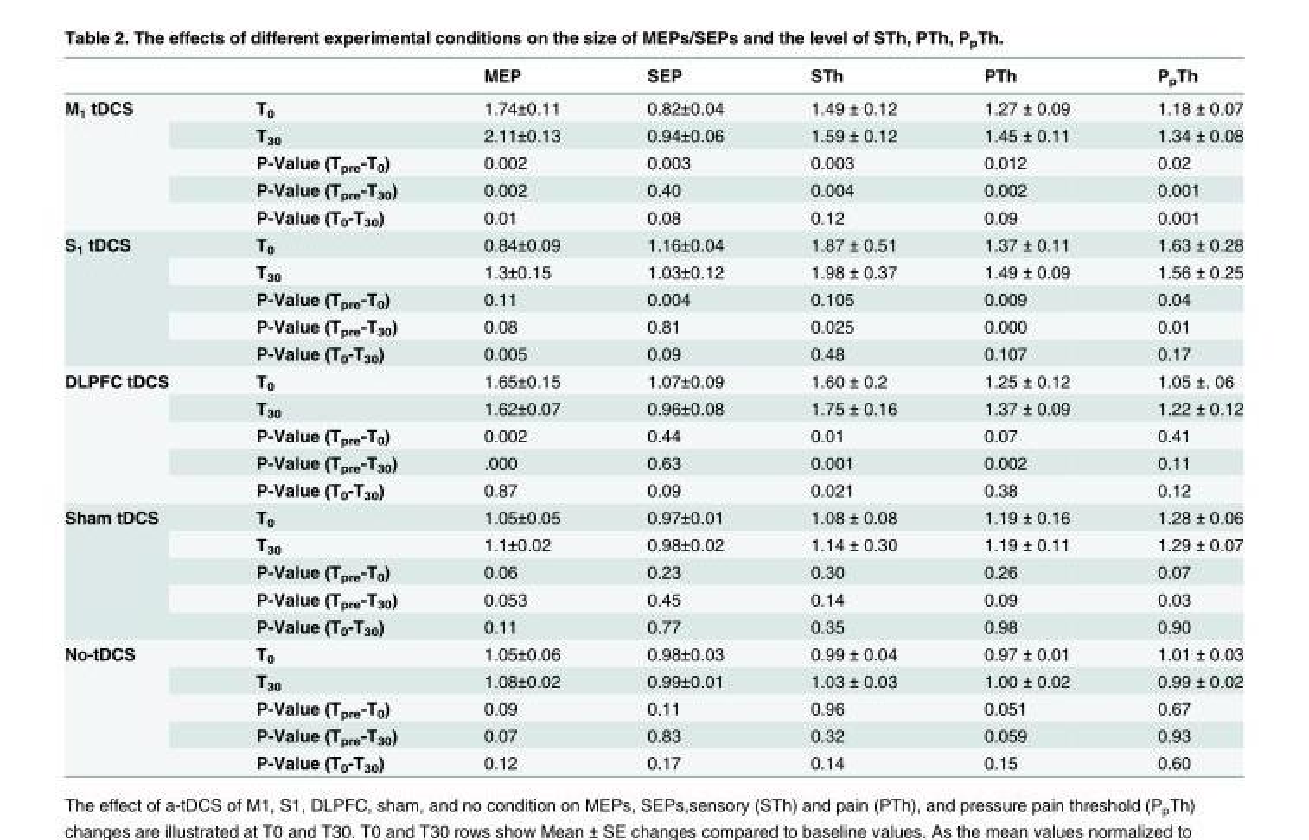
<table><thead><tr><td></td><td></td><td>MEP</td><td>SEP</td><td>STh</td><td>PTh</td><td>P<sub>p</sub>Th</td></tr></thead><tbody><tr><td rowspan="5">M<sub>1</sub> tDCS</td><td>T<sub>0</sub></td><td>1.74±0.11</td><td>0.82±0.04</td><td>1.49 ± 0.12</td><td>1.27 ± 0.09</td><td>1.18 ± 0.07</td></tr><tr><td>T<sub>30</sub></td><td>2.11±0.13</td><td>0.94±0.06</td><td>1.59 ± 0.12</td><td>1.45 ± 0.11</td><td>1.34 ± 0.08</td></tr><tr><td>P-Value (T<sub>pre</sub>-T<sub>0</sub>)</td><td>0.002</td><td>0.003</td><td>0.003</td><td>0.012</td><td>0.02</td></tr><tr><td>P-Value (T<sub>pre</sub>-T<sub>30</sub>)</td><td>0.002</td><td>0.40</td><td>0.004</td><td>0.002</td><td>0.001</td></tr><tr><td>P-Value (T<sub>0</sub>-T<sub>30</sub>)</td><td>0.01</td><td>0.08</td><td>0.12</td><td>0.09</td><td>0.001</td></tr><tr><td rowspan="5">S<sub>1</sub> tDCS</td><td>T<sub>0</sub></td><td>0.84±0.09</td><td>1.16±0.04</td><td>1.87 ± 0.51</td><td>1.37 ± 0.11</td><td>1.63 ± 0.28</td></tr><tr><td>T<sub>30</sub></td><td>1.3±0.15</td><td>1.03±0.12</td><td>1.98 ± 0.37</td><td>1.49 ± 0.09</td><td>1.56 ± 0.25</td></tr><tr><td>P-Value (T<sub>pre</sub>-T<sub>0</sub>)</td><td>0.11</td><td>0.004</td><td>0.105</td><td>0.009</td><td>0.04</td></tr><tr><td>P-Value (T<sub>pre</sub>-T<sub>30</sub>)</td><td>0.08</td><td>0.81</td><td>0.025</td><td>0.000</td><td>0.01</td></tr><tr><td>P-Value (T<sub>0</sub>-T<sub>30</sub>)</td><td>0.005</td><td>0.09</td><td>0.48</td><td>0.107</td><td>0.17</td></tr><tr><td rowspan="5">DLPFC tDCS</td><td>T<sub>0</sub></td><td>1.65±0.15</td><td>1.07±0.09</td><td>1.60 ± 0.2</td><td>1.25 ± 0.12</td><td>1.05 ±. 06</td></tr><tr><td>T<sub>30</sub></td><td>1.62±0.07</td><td>0.96±0.08</td><td>1.75 ± 0.16</td><td>1.37 ± 0.09</td><td>1.22 ± 0.12</td></tr><tr><td>P-Value (T<sub>pre</sub>-T<sub>0</sub>)</td><td>0.002</td><td>0.44</td><td>0.01</td><td>0.07</td><td>0.41</td></tr><tr><td>P-Value (T<sub>pre</sub>-T<sub>30</sub>)</td><td>.000</td><td>0.63</td><td>0.001</td><td>0.002</td><td>0.11</td></tr><tr><td>P-Value (T<sub>0</sub>-T<sub>30</sub>)</td><td>0.87</td><td>0.09</td><td>0.021</td><td>0.38</td><td>0.12</td></tr><tr><td rowspan="5">Sham tDCS</td><td>T<sub>0</sub></td><td>1.05±0.05</td><td>0.97±0.01</td><td>1.08 ± 0.08</td><td>1.19 ± 0.16</td><td>1.28 ± 0.06</td></tr><tr><td>T<sub>30</sub></td><td>1.1±0.02</td><td>0.98±0.02</td><td>1.14 ± 0.30</td><td>1.19 ± 0.11</td><td>1.29 ± 0.07</td></tr><tr><td>P-Value (T<sub>pre</sub>-T<sub>0</sub>)</td><td>0.06</td><td>0.23</td><td>0.30</td><td>0.26</td><td>0.07</td></tr><tr><td>P-Value (T<sub>pre</sub>-T<sub>30</sub>)</td><td>0.053</td><td>0.45</td><td>0.14</td><td>0.09</td><td>0.03</td></tr><tr><td>P-Value (T<sub>0</sub>-T<sub>30</sub>)</td><td>0.11</td><td>0.77</td><td>0.35</td><td>0.98</td><td>0.90</td></tr><tr><td rowspan="5">No-tDCS</td><td>T<sub>0</sub></td><td>1.05±0.06</td><td>0.98±0.03</td><td>0.99 ± 0.04</td><td>0.97 ± 0.01</td><td>1.01 ± 0.03</td></tr><tr><td>T<sub>30</sub></td><td>1.08±0.02</td><td>0.99±0.01</td><td>1.03 ± 0.03</td><td>1.00 ± 0.02</td><td>0.99 ± 0.02</td></tr><tr><td>P-Value (T<sub>pre</sub>-T<sub>0</sub>)</td><td>0.09</td><td>0.11</td><td>0.96</td><td>0.051</td><td>0.67</td></tr><tr><td>P-Value (T<sub>pre</sub>-T<sub>30</sub>)</td><td>0.07</td><td>0.83</td><td>0.32</td><td>0.059</td><td>0.93</td></tr><tr><td>P-Value (T<sub>0</sub>-T<sub>30</sub>)</td><td>0.12</td><td>0.17</td><td>0.14</td><td>0.15</td><td>0.60</td></tr></tbody></table>